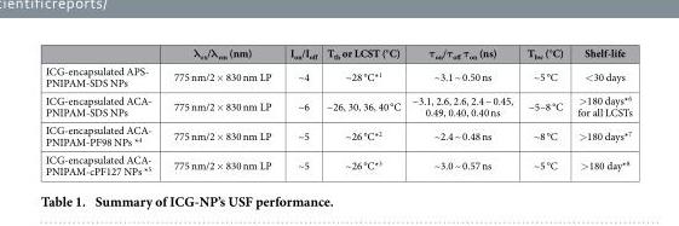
<table><thead><tr><td></td><td>λ<sub>ex</sub>/λ<sub>em</sub> (nm)</td><td>I<sub>on</sub>/I<sub>off</sub></td><td>T<sub>th</sub> or LCST (°C)</td><td>τ<sub>on</sub>/τ<sub>off</sub> τ<sub>on</sub> (ns)</td><td>T<sub>bw</sub> (°C)</td><td>Shelf-life</td></tr></thead><tbody><tr><td>ICG-encapsulated APS- PNIPAM-SDS NPs</td><td>775 nm/2 × 830 nm LP</td><td>~4</td><td>~28 °C*<sup>1</sup></td><td>~3.1 ~ 0.50 ns</td><td>~5 °C</td><td>&lt;30 days</td></tr><tr><td>ICG-encapsulated ACA- PNIPAM-SDS NPs</td><td>775 nm/2 × 830 nm LP</td><td>~6</td><td>~26, 30, 36, 40 °C</td><td>~3.1, 2.6, 2.6, 2.4 ~ 0.45, 0.49, 0.40, 0.40 ns</td><td>~5–8 °C</td><td>&gt;180 days*<sup>6</sup> for all LCSTs</td></tr><tr><td>ICG-encapsulated ACA- PNIPAM-PF98 NPs *<sup>4</sup></td><td>775 nm/2 × 830 nm LP</td><td>~5</td><td>~26 °C*<sup>2</sup></td><td>~2.4 ~ 0.48 ns</td><td>~8 °C</td><td>&gt; 180 days*<sup>7</sup></td></tr><tr><td>ICG-encapsulated ACA- PNIPAM-cPF127 NPs *<sup>5</sup></td><td>775 nm/2 × 830 nm LP</td><td>~5</td><td>~26 °C*<sup>3</sup></td><td>~3.0 ~ 0.57 ns</td><td>~5 °C</td><td>&gt;180 day*<sup>8</sup></td></tr></tbody></table>